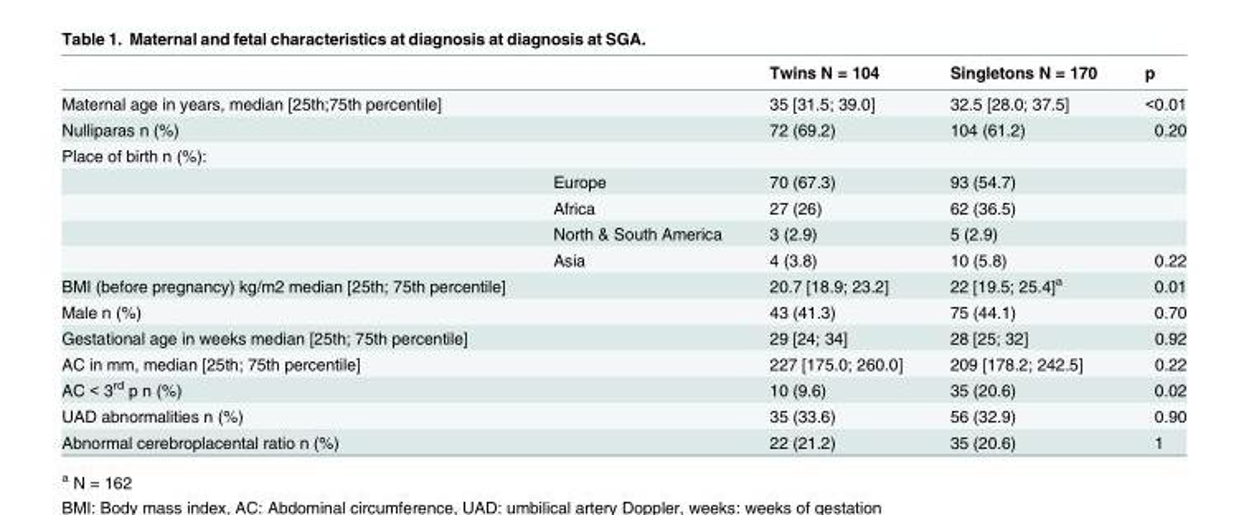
<table><thead><tr><td></td><td></td><td>Twins N = 104</td><td>Singletons N = 170</td><td>p</td></tr></thead><tbody><tr><td>Maternal age in years, median [25th;75th percentile]</td><td></td><td>35 [31.5; 39.0]</td><td>32.5 [28.0; 37.5]</td><td>&lt;0.01</td></tr><tr><td>Nulliparas n (%)</td><td></td><td>72 (69.2)</td><td>104 (61.2)</td><td>0.20</td></tr><tr><td colspan="5">Place of birth n (%):</td></tr><tr><td></td><td>Europe</td><td>70 (67.3)</td><td>93 (54.7)</td><td></td></tr><tr><td></td><td>Africa</td><td>27 (26)</td><td>62 (36.5)</td><td></td></tr><tr><td></td><td>North &amp; South America</td><td>3 (2.9)</td><td>5 (2.9)</td><td></td></tr><tr><td></td><td>Asia</td><td>4 (3.8)</td><td>10 (5.8)</td><td>0.22</td></tr><tr><td>BMI (before pregnancy) kg/m2 median [25th; 75th percentile]</td><td></td><td>20.7 [18.9; 23.2]</td><td>22 [19.5; 25.4]<sup>a</sup></td><td>0.01</td></tr><tr><td>Male n (%)</td><td></td><td>43 (41.3)</td><td>75 (44.1)</td><td>0.70</td></tr><tr><td>Gestational age in weeks median [25th; 75th percentile]</td><td></td><td>29 [24; 34]</td><td>28 [25; 32]</td><td>0.92</td></tr><tr><td>AC in mm, median [25th; 75th percentile]</td><td></td><td>227 [175.0; 260.0]</td><td>209 [178.2; 242.5]</td><td>0.22</td></tr><tr><td>AC &lt; 3<sup>rd</sup> p n (%)</td><td></td><td>10 (9.6)</td><td>35 (20.6)</td><td>0.02</td></tr><tr><td>UAD abnormalities n (%)</td><td></td><td>35 (33.6)</td><td>56 (32.9)</td><td>0.90</td></tr><tr><td>Abnormal cerebroplacental ratio n (%)</td><td></td><td>22 (21.2)</td><td>35 (20.6)</td><td>1</td></tr></tbody></table>